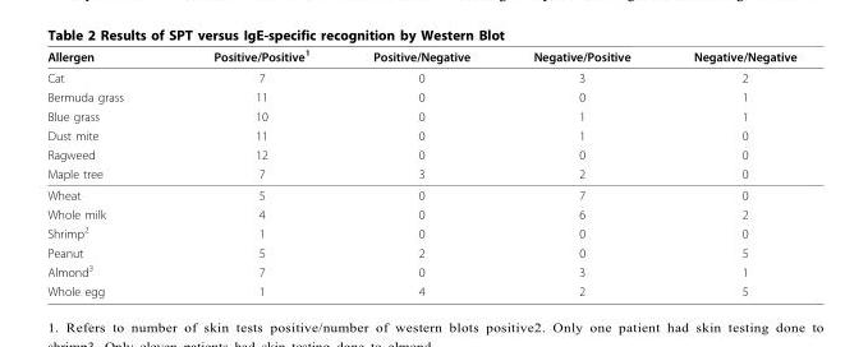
<table><thead><tr><td>Allergen</td><td>Positive/Positive<sup>1</sup></td><td>Positive/Negative</td><td>Negative/Positive</td><td>Negative/Negative</td></tr></thead><tbody><tr><td>Cat</td><td>7</td><td>0</td><td>3</td><td>2</td></tr><tr><td>Bermuda grass</td><td>11</td><td>0</td><td>0</td><td>1</td></tr><tr><td>Blue grass</td><td>10</td><td>0</td><td>1</td><td>1</td></tr><tr><td>Dust mite</td><td>11</td><td>0</td><td>1</td><td>0</td></tr><tr><td>Ragweed</td><td>12</td><td>0</td><td>0</td><td>0</td></tr><tr><td>Maple tree</td><td>7</td><td>3</td><td>2</td><td>0</td></tr><tr><td>Wheat</td><td>5</td><td>0</td><td>7</td><td>0</td></tr><tr><td>Whole milk</td><td>4</td><td>0</td><td>6</td><td>2</td></tr><tr><td>Shrimp<sup>2</sup></td><td>1</td><td>0</td><td>0</td><td>0</td></tr><tr><td>Peanut</td><td>5</td><td>2</td><td>0</td><td>5</td></tr><tr><td>Almond<sup>3</sup></td><td>7</td><td>0</td><td>3</td><td>1</td></tr><tr><td>Whole egg</td><td>1</td><td>4</td><td>2</td><td>5</td></tr></tbody></table>